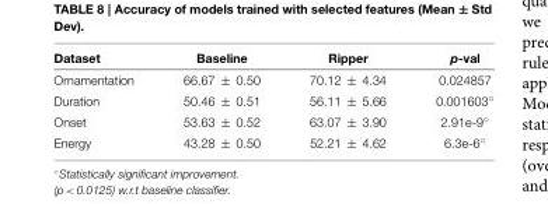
<table><thead><tr><td>Dataset</td><td>Baseline</td><td>Ripper</td><td>p-val</td></tr></thead><tbody><tr><td>Ornamentation</td><td>66.67 ± 0.50</td><td>70.12 ± 4.34</td><td>0.024857</td></tr><tr><td>Duration</td><td>50.46 ± 0.51</td><td>56.11 ± 5.66</td><td>0.001603◦</td></tr><tr><td>Onset</td><td>53.63 ± 0.52</td><td>63.07 ± 3.90</td><td>2.91e-9◦</td></tr><tr><td>Energy</td><td>43.28 ± 0.50</td><td>52.21 ± 4.62</td><td>6.3e-6◦</td></tr></tbody></table>